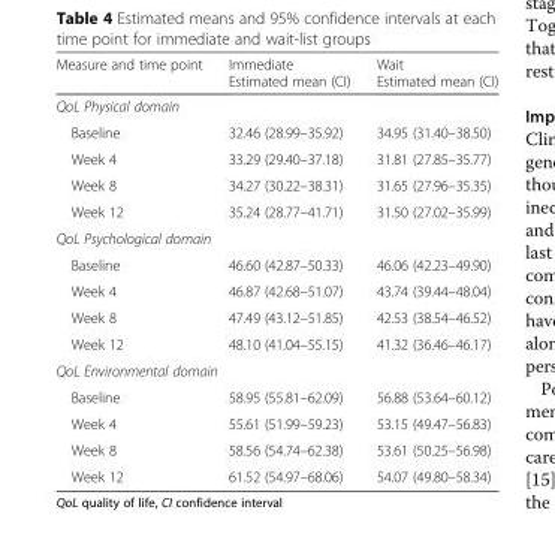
<table><thead><tr><td>Measure and time point</td><td>Immediate Estimated mean (CI)</td><td>Wait Estimated mean (CI)</td></tr></thead><tbody><tr><td colspan="3">QoL Physical domain</td></tr><tr><td>Baseline</td><td>32.46 (28.99–35.92)</td><td>34.95 (31.40–38.50)</td></tr><tr><td>Week 4</td><td>33.29 (29.40–37.18)</td><td>31.81 (27.85–35.77)</td></tr><tr><td>Week 8</td><td>34.27 (30.22–38.31)</td><td>31.65 (27.96–35.35)</td></tr><tr><td>Week 12</td><td>35.24 (28.77–41.71)</td><td>31.50 (27.02–35.99)</td></tr><tr><td colspan="3">QoL Psychological domain</td></tr><tr><td>Baseline</td><td>46.60 (42.87–50.33)</td><td>46.06 (42.23–49.90)</td></tr><tr><td>Week 4</td><td>46.87 (42.68–51.07)</td><td>43.74 (39.44–48.04)</td></tr><tr><td>Week 8</td><td>47.49 (43.12–51.85)</td><td>42.53 (38.54–46.52)</td></tr><tr><td>Week 12</td><td>48.10 (41.04–55.15)</td><td>41.32 (36.46–46.17)</td></tr><tr><td colspan="3">QoL Environmental domain</td></tr><tr><td>Baseline</td><td>58.95 (55.81–62.09)</td><td>56.88 (53.64–60.12)</td></tr><tr><td>Week 4</td><td>55.61 (51.99–59.23)</td><td>53.15 (49.47–56.83)</td></tr><tr><td>Week 8</td><td>58.56 (54.74–62.38)</td><td>53.61 (50.25–56.98)</td></tr><tr><td>Week 12</td><td>61.52 (54.97–68.06)</td><td>54.07 (49.80–58.34)</td></tr></tbody></table>